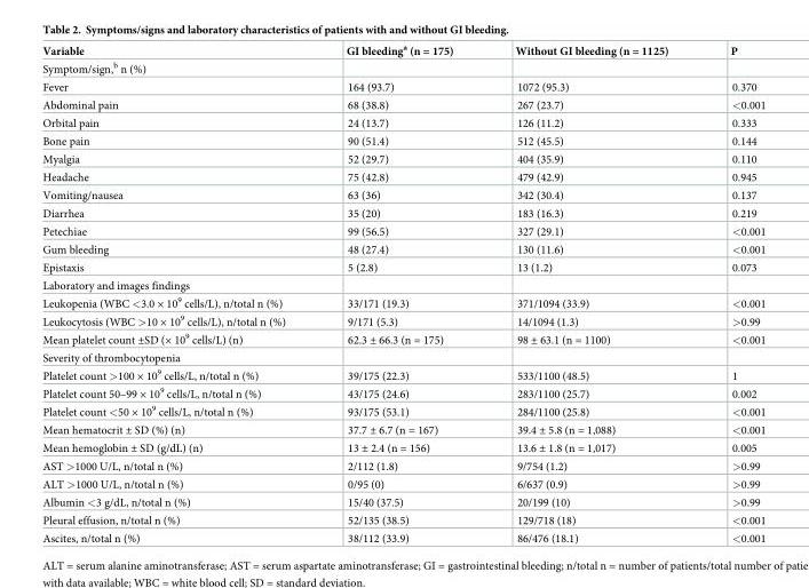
<table><thead><tr><td>Variable</td><td>GI bleeding<sup>a</sup> (n = 175)</td><td>Without GI bleeding (n = 1125)</td><td>P</td></tr></thead><tbody><tr><td colspan="4">Symptom/sign,<sup>b</sup> n (%)</td></tr><tr><td>Fever</td><td>164 (93.7)</td><td>1072 (95.3)</td><td>0.370</td></tr><tr><td>Abdominal pain</td><td>68 (38.8)</td><td>267 (23.7)</td><td>&lt;0.001</td></tr><tr><td>Orbital pain</td><td>24 (13.7)</td><td>126 (11.2)</td><td>0.333</td></tr><tr><td>Bone pain</td><td>90 (51.4)</td><td>512 (45.5)</td><td>0.144</td></tr><tr><td>Myalgia</td><td>52 (29.7)</td><td>404 (35.9)</td><td>0.110</td></tr><tr><td>Headache</td><td>75 (42.8)</td><td>479 (42.9)</td><td>0.945</td></tr><tr><td>Vomiting/nausea</td><td>63 (36)</td><td>342 (30.4)</td><td>0.137</td></tr><tr><td>Diarrhea</td><td>35 (20)</td><td>183 (16.3)</td><td>0.219</td></tr><tr><td>Petechiae</td><td>99 (56.5)</td><td>327 (29.1)</td><td>&lt;0.001</td></tr><tr><td>Gum bleeding</td><td>48 (27.4)</td><td>130 (11.6)</td><td>&lt;0.001</td></tr><tr><td>Epistaxis</td><td>5 (2.8)</td><td>13 (1.2)</td><td>0.073</td></tr><tr><td colspan="4">Laboratory and images findings</td></tr><tr><td>Leukopenia (WBC &lt;3.0 × 10<sup>9</sup> cells/L), n/total n (%)</td><td>33/171 (19.3)</td><td>371/1094 (33.9)</td><td>&lt;0.001</td></tr><tr><td>Leukocytosis (WBC &gt;10 × 10<sup>9</sup> cells/L), n/total n (%)</td><td>9/171 (5.3)</td><td>14/1094 (1.3)</td><td>&gt;0.99</td></tr><tr><td>Mean platelet count ±SD (× 10<sup>9</sup> cells/L) (n)</td><td>62.3 ± 66.3 (n = 175)</td><td>98 ± 63.1 (n = 1100)</td><td>&lt;0.001</td></tr><tr><td colspan="4">Severity of thrombocytopenia</td></tr><tr><td>Platelet count &gt;100 × 10<sup>9</sup> cells/L, n/total n (%)</td><td>39/175 (22.3)</td><td>533/1100 (48.5)</td><td>1</td></tr><tr><td>Platelet count 50–99 × 10<sup>9</sup> cells/L, n/total n (%)</td><td>43/175 (24.6)</td><td>283/1100 (25.7)</td><td>0.002</td></tr><tr><td>Platelet count &lt;50 × 10<sup>9</sup> cells/L, n/total n (%)</td><td>93/175 (53.1)</td><td>284/1100 (25.8)</td><td>&lt;0.001</td></tr><tr><td>Mean hematocrit ± SD (%) (n)</td><td>37.7 ± 6.7 (n = 167)</td><td>39.4 ± 5.8 (n = 1,088)</td><td>&lt;0.001</td></tr><tr><td>Mean hemoglobin ± SD (g/dL) (n)</td><td>13 ± 2.4 (n = 156)</td><td>13.6 ± 1.8 (n = 1,017)</td><td>0.005</td></tr><tr><td>AST &gt;1000 U/L, n/total n (%)</td><td>2/112 (1.8)</td><td>9/754 (1.2)</td><td>&gt;0.99</td></tr><tr><td>ALT &gt;1000 U/L, n/total n (%)</td><td>0/95 (0)</td><td>6/637 (0.9)</td><td>&gt;0.99</td></tr><tr><td>Albumin &lt;3 g/dL, n/total n (%)</td><td>15/40 (37.5)</td><td>20/199 (10)</td><td>&gt;0.99</td></tr><tr><td>Pleural effusion, n/total n (%)</td><td>52/135 (38.5)</td><td>129/718 (18)</td><td>&lt;0.001</td></tr><tr><td>Ascites, n/total n (%)</td><td>38/112 (33.9)</td><td>86/476 (18.1)</td><td>&lt;0.001</td></tr></tbody></table>